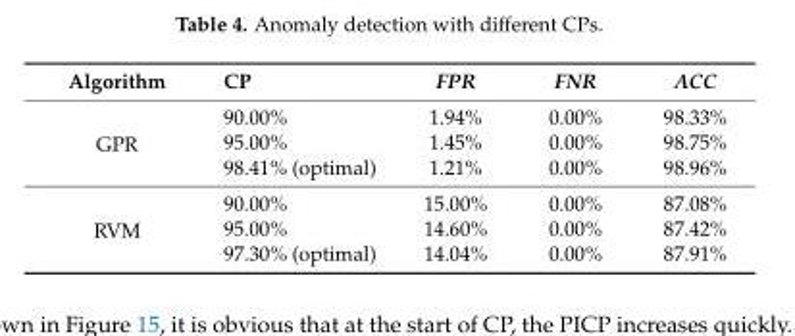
<table><thead><tr><td>Algorithm</td><td>CP</td><td>FPR</td><td>FNR</td><td>ACC</td></tr></thead><tbody><tr><td rowspan="3">GPR</td><td>90.00%</td><td>1.94%</td><td>0.00%</td><td>98.33%</td></tr><tr><td>95.00%</td><td>1.45%</td><td>0.00%</td><td>98.75%</td></tr><tr><td>98.41% (optimal)</td><td>1.21%</td><td>0.00%</td><td>98.96%</td></tr><tr><td rowspan="3">RVM</td><td>90.00%</td><td>15.00%</td><td>0.00%</td><td>87.08%</td></tr><tr><td>95.00%</td><td>14.60%</td><td>0.00%</td><td>87.42%</td></tr><tr><td>97.30% (optimal)</td><td>14.04%</td><td>0.00%</td><td>87.91%</td></tr></tbody></table>